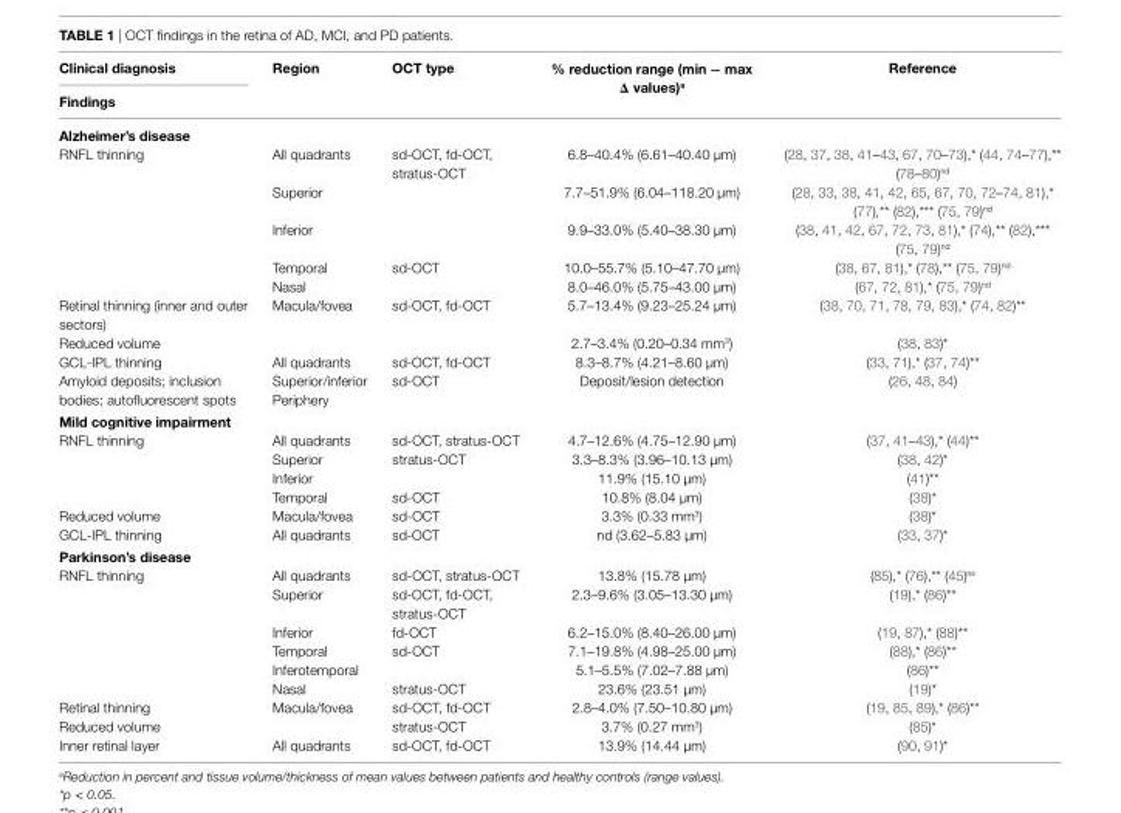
<table><thead><tr><td rowspan="2">Clinical diagnosis Findings</td><td rowspan="2">Region</td><td rowspan="2">OCT type</td><td rowspan="2">% reduction range (min − max Δ values)<sup>a</sup></td><td rowspan="2">Reference</td></tr><tr></tr></thead><tbody><tr><td colspan="5">Alzheimer’s disease</td></tr><tr><td rowspan="5">RNFL thinning</td><td>All quadrants</td><td rowspan="3">sdOCT, fdOCT, stratusOCT</td><td>6.8–40.4% (6.61–40.40 µm)</td><td>(28, 37, 38, 41–43, 67, 70–73),* (44, 74–77),** (78–80)<sup>nd</sup></td></tr><tr><td>Superior</td><td>7.7–51.9% (6.04–118.20 µm)</td><td>(28, 33, 38, 41, 42, 65, 67, 70, 72–74, 81),* (77),** (82),*** (75, 79)<sup>nd</sup></td></tr><tr><td>Inferior</td><td>9.9–33.0% (5.40–38.30 µm)</td><td>(38, 41, 42, 67, 72, 73, 81),* (74),** (82),*** (75, 79)<sup>nd</sup></td></tr><tr><td>Temporal</td><td rowspan="2">sdOCT</td><td>10.0–55.7% (5.10–47.70 µm)</td><td>(38, 67, 81),* (78),** (75, 79)<sup>nd</sup></td></tr><tr><td>Nasal</td><td>8.0–46.0% (5.75–43.00 µm)</td><td>(67, 72, 81),* (75, 79)<sup>nd</sup></td></tr><tr><td>Retinal thinning (inner and outer sectors)</td><td rowspan="2">Macula/fovea</td><td rowspan="2">sdOCT, fdOCT</td><td>5.7–13.4% (9.23–25.24 µm)</td><td>(38, 70, 71, 78, 79, 83),* (74, 82)**</td></tr><tr><td>Reduced volume</td><td>2.7–3.4% (0.20–0.34 mm<sup>3</sup>)</td><td>(38, 83)*</td></tr><tr><td>GCLIPL thinning</td><td>All quadrants</td><td>sdOCT, fdOCT</td><td>8.3–8.7% (4.21–8.60 µm)</td><td>(33, 71),* (37, 74)**</td></tr><tr><td>Amyloid deposits; inclusion bodies; autofluorescent spots</td><td>Superior/inferior Periphery</td><td>sdOCT</td><td>Deposit/lesion detection</td><td>(26, 48, 84)</td></tr><tr><td colspan="5">Mild cognitive impairment</td></tr><tr><td rowspan="4">RNFL thinning</td><td>All quadrants</td><td>sdOCT, stratusOCT</td><td>4.7–12.6% (4.75–12.90 µm)</td><td>(37, 41–43),* (44)**</td></tr><tr><td>Superior</td><td rowspan="2">stratusOCT</td><td>3.3–8.3% (3.96–10.13 µm)</td><td>(38, 42)*</td></tr><tr><td>Inferior</td><td>11.9% (15.10 µm)</td><td>(41)**</td></tr><tr><td>Temporal</td><td>sdOCT</td><td>10.8% (8.04 µm)</td><td>(38)*</td></tr><tr><td>Reduced volume</td><td>Macula/fovea</td><td>sdOCT</td><td>3.3% (0.33 mm<sup>3</sup>)</td><td>(38)*</td></tr><tr><td>GCLIPL thinning</td><td>All quadrants</td><td>sdOCT</td><td>nd (3.62–5.83 µm)</td><td>(33, 37)*</td></tr><tr><td colspan="5">Parkinson’s disease</td></tr><tr><td rowspan="6">RNFL thinning</td><td>All quadrants</td><td>sdOCT, stratusOCT</td><td>13.8% (15.78 µm)</td><td>(85),* (76),** (45)<sup>ns</sup></td></tr><tr><td>Superior</td><td>sdOCT, fdOCT, stratusOCT</td><td>2.3–9.6% (3.05–13.30 µm)</td><td>(19),* (86)**</td></tr><tr><td>Inferior</td><td>fdOCT</td><td>6.2–15.0% (8.40–26.00 µm)</td><td>(19, 87),* (88)**</td></tr><tr><td>Temporal</td><td rowspan="2">sdOCT</td><td>7.1–19.8% (4.98–25.00 µm)</td><td>(88),* (86)**</td></tr><tr><td>Inferotemporal</td><td>5.1–5.5% (7.02–7.88 µm)</td><td>(86)**</td></tr><tr><td>Nasal</td><td>stratusOCT</td><td>23.6% (23.51 µm)</td><td>(19)*</td></tr><tr><td>Retinal thinning</td><td rowspan="2">Macula/fovea</td><td>sdOCT, fdOCT</td><td>2.8–4.0% (7.50–10.80 µm)</td><td>(19, 85, 89),* (86)**</td></tr><tr><td>Reduced volume</td><td>stratusOCT</td><td>3.7% (0.27 mm<sup>3</sup>)</td><td>(85)*</td></tr><tr><td>Inner retinal layer</td><td>All quadrants</td><td>sdOCT, fdOCT</td><td>13.9% (14.44 µm)</td><td>(90, 91)*</td></tr></tbody></table>